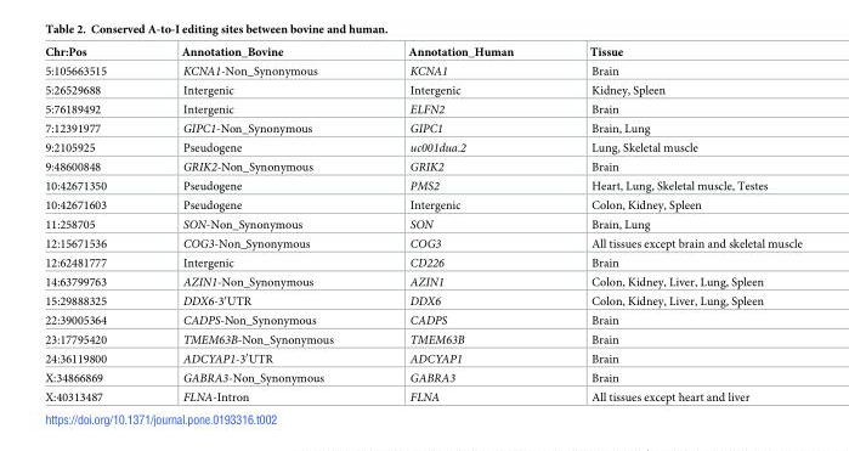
<table><thead><tr><td>Chr:Pos</td><td>Annotation_Bovine</td><td>Annotation_Human</td><td>Tissue</td></tr></thead><tbody><tr><td>5:105663515</td><td>KCNA1-Non_Synonymous</td><td>KCNA1</td><td>Brain</td></tr><tr><td>5:26529688</td><td>Intergenic</td><td>Intergenic</td><td>Kidney, Spleen</td></tr><tr><td>5:76189492</td><td>Intergenic</td><td>ELFN2</td><td>Brain</td></tr><tr><td>7:12391977</td><td>GIPC1-Non_Synonymous</td><td>GIPC1</td><td>Brain, Lung</td></tr><tr><td>9:2105925</td><td>Pseudogene</td><td>uc001dua.2</td><td>Lung, Skeletal muscle</td></tr><tr><td>9:48600848</td><td>GRIK2-Non_Synonymous</td><td>GRIK2</td><td>Brain</td></tr><tr><td>10:42671350</td><td>Pseudogene</td><td>PMS2</td><td>Heart, Lung, Skeletal muscle, Testes</td></tr><tr><td>10:42671603</td><td>Pseudogene</td><td>Intergenic</td><td>Colon, Kidney, Spleen</td></tr><tr><td>11:258705</td><td>SON-Non_Synonymous</td><td>SON</td><td>Brain, Lung</td></tr><tr><td>12:15671536</td><td>COG3-Non_Synonymous</td><td>COG3</td><td>All tissues except brain and skeletal muscle</td></tr><tr><td>12:62481777</td><td>Intergenic</td><td>CD226</td><td>Brain</td></tr><tr><td>14:63799763</td><td>AZIN1-Non_Synonymous</td><td>AZIN1</td><td>Colon, Kidney, Liver, Lung, Spleen</td></tr><tr><td>15:29888325</td><td>DDX6-3′UTR</td><td>DDX6</td><td>Colon, Kidney, Liver, Lung, Spleen</td></tr><tr><td>22:39005364</td><td>CADPS-Non_Synonymous</td><td>CADPS</td><td>Brain</td></tr><tr><td>23:17795420</td><td>TMEM63B-Non_Synonymous</td><td>TMEM63B</td><td>Brain</td></tr><tr><td>24:36119800</td><td>ADCYAP1-3′UTR</td><td>ADCYAP1</td><td>Brain</td></tr><tr><td>X:34866869</td><td>GABRA3-Non_Synonymous</td><td>GABRA3</td><td>Brain</td></tr><tr><td>X:40313487</td><td>FLNA-Intron</td><td>FLNA</td><td>All tissues except heart and liver</td></tr></tbody></table>